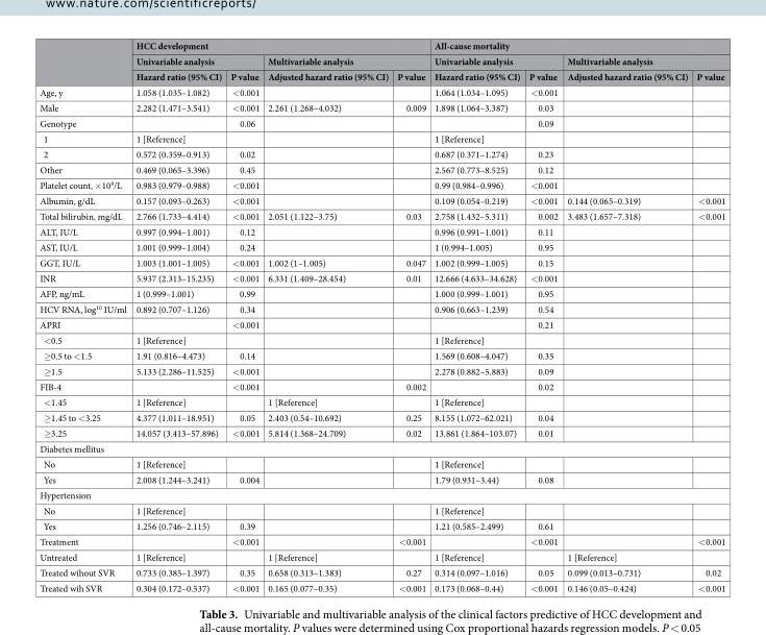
<table><thead><tr><td rowspan="3"></td><td colspan="4">HCC development</td><td colspan="4">All-cause mortality</td></tr><tr><td colspan="2">Univariable analysis</td><td colspan="2">Multivariable analysis</td><td colspan="2">Univariable analysis</td><td colspan="2">Multivariable analysis</td></tr><tr><td>Hazard ratio (95% CI)</td><td>P value</td><td>Adjusted hazard ratio (95% CI)</td><td>P value</td><td>Hazard ratio (95% CI)</td><td>P value</td><td>Adjusted hazard ratio (95% CI)</td><td>P value</td></tr></thead><tbody><tr><td>Age, y</td><td>1.058 (1.035–1.082)</td><td>&lt;0.001</td><td></td><td></td><td>1.064 (1.034–1.095)</td><td>&lt;0.001</td><td></td><td></td></tr><tr><td>Male</td><td>2.282 (1.471–3.541)</td><td>&lt;0.001</td><td>2.261 (1.268–4.032)</td><td>0.009</td><td>1.898 (1.064–3.387)</td><td>0.03</td><td></td><td></td></tr><tr><td>Genotype</td><td></td><td>0.06</td><td></td><td></td><td></td><td>0.09</td><td></td><td></td></tr><tr><td>1</td><td>1 [Reference]</td><td></td><td></td><td></td><td>1 [Reference]</td><td></td><td></td><td></td></tr><tr><td>2</td><td>0.572 (0.359–0.913)</td><td>0.02</td><td></td><td></td><td>0.687 (0.371–1.274)</td><td>0.23</td><td></td><td></td></tr><tr><td>Other</td><td>0.469 (0.065–3.396)</td><td>0.45</td><td></td><td></td><td>2.567 (0.773–8.525)</td><td>0.12</td><td></td><td></td></tr><tr><td>Platelet count, ×10<sup>9</sup>/L</td><td>0.983 (0.979–0.988)</td><td>&lt;0.001</td><td></td><td></td><td>0.99 (0.984–0.996)</td><td>&lt;0.001</td><td></td><td></td></tr><tr><td>Albumin, g/dL</td><td>0.157 (0.093–0.263)</td><td>&lt;0.001</td><td></td><td></td><td>0.109 (0.054–0.219)</td><td>&lt;0.001</td><td>0.144 (0.065–0.319)</td><td>&lt;0.001</td></tr><tr><td>Total bilirubin, mg/dL</td><td>2.766 (1.733–4.414)</td><td>&lt;0.001</td><td>2.051 (1.122–3.75)</td><td>0.03</td><td>2.758 (1.432–5.311)</td><td>0.002</td><td>3.483 (1.657–7.318)</td><td>&lt;0.001</td></tr><tr><td>ALT, IU/L</td><td>0.997 (0.994–1.001)</td><td>0.12</td><td></td><td></td><td>0.996 (0.991–1.001)</td><td>0.11</td><td></td><td></td></tr><tr><td>AST, IU/L</td><td>1.001 (0.999–1.004)</td><td>0.24</td><td></td><td></td><td>1 (0.994–1.005)</td><td>0.95</td><td></td><td></td></tr><tr><td>GGT, IU/L</td><td>1.003 (1.001–1.005)</td><td>&lt;0.001</td><td>1.002 (1–1.005)</td><td>0.047</td><td>1.002 (0.999–1.005)</td><td>0.15</td><td></td><td></td></tr><tr><td>INR</td><td>5.937 (2.313–15.235)</td><td>&lt;0.001</td><td>6.331 (1.409–28.454)</td><td>0.01</td><td>12.666 (4.633–34.628)</td><td>&lt;0.001</td><td></td><td></td></tr><tr><td>AFP, ng/mL</td><td>1 (0.999–1.001)</td><td>0.99</td><td></td><td></td><td>1.000 (0.999–1.001)</td><td>0.95</td><td></td><td></td></tr><tr><td>HCV RNA, log<sup>10</sup> IU/ml</td><td>0.892 (0.707–1.126)</td><td>0.34</td><td></td><td></td><td>0.906 (0.663–1.239)</td><td>0.54</td><td></td><td></td></tr><tr><td>APRI</td><td></td><td>&lt;0.001</td><td></td><td></td><td></td><td>0.21</td><td></td><td></td></tr><tr><td>&lt;0.5</td><td>1 [Reference]</td><td></td><td></td><td></td><td>1 [Reference]</td><td></td><td></td><td></td></tr><tr><td>≥0.5 to &lt;1.5</td><td>1.91 (0.816–4.473)</td><td>0.14</td><td></td><td></td><td>1.569 (0.608–4.047)</td><td>0.35</td><td></td><td></td></tr><tr><td>≥1.5</td><td>5.133 (2.286–11.525)</td><td>&lt;0.001</td><td></td><td></td><td>2.278 (0.882–5.883)</td><td>0.09</td><td></td><td></td></tr><tr><td>FIB-4</td><td></td><td>&lt;0.001</td><td></td><td>0.002</td><td></td><td>0.02</td><td></td><td></td></tr><tr><td>&lt;1.45</td><td>1 [Reference]</td><td></td><td>1 [Reference]</td><td></td><td>1 [Reference]</td><td></td><td></td><td></td></tr><tr><td>≥1.45 to &lt;3.25</td><td>4.377 (1.011–18.951)</td><td>0.05</td><td>2.403 (0.54–10.692)</td><td>0.25</td><td>8.155 (1.072–62.021)</td><td>0.04</td><td></td><td></td></tr><tr><td>≥3.25</td><td>14.057 (3.413–57.896)</td><td>&lt;0.001</td><td>5.814 (1.368–24.709)</td><td>0.02</td><td>13.861 (1.864–103.07)</td><td>0.01</td><td></td><td></td></tr><tr><td colspan="9">Diabetes mellitus</td></tr><tr><td>No</td><td>1 [Reference]</td><td></td><td></td><td></td><td>1 [Reference]</td><td></td><td></td><td></td></tr><tr><td>Yes</td><td>2.008 (1.244–3.241)</td><td>0.004</td><td></td><td></td><td>1.79 (0.931–3.44)</td><td>0.08</td><td></td><td></td></tr><tr><td colspan="9">Hypertension</td></tr><tr><td>No</td><td>1 [Reference]</td><td></td><td></td><td></td><td>1 [Reference]</td><td></td><td></td><td></td></tr><tr><td>Yes</td><td>1.256 (0.746–2.115)</td><td>0.39</td><td></td><td></td><td>1.21 (0.585–2.499)</td><td>0.61</td><td></td><td></td></tr><tr><td>Treatment</td><td></td><td>&lt;0.001</td><td></td><td>&lt;0.001</td><td></td><td>&lt;0.001</td><td></td><td>&lt;0.001</td></tr><tr><td>Untreated</td><td>1 [Reference]</td><td></td><td>1 [Reference]</td><td></td><td>1 [Reference]</td><td></td><td>1 [Reference]</td><td></td></tr><tr><td>Treated wihout SVR</td><td>0.733 (0.385–1.397)</td><td>0.35</td><td>0.658 (0.313–1.383)</td><td>0.27</td><td>0.314 (0.097–1.016)</td><td>0.05</td><td>0.099 (0.013–0.731)</td><td>0.02</td></tr><tr><td>Treated wih SVR</td><td>0.304 (0.172–0.537)</td><td>&lt;0.001</td><td>0.165 (0.077–0.35)</td><td>&lt;0.001</td><td>0.173 (0.068–0.44)</td><td>&lt;0.001</td><td>0.146 (0.05–0.424)</td><td>&lt;0.001</td></tr></tbody></table>